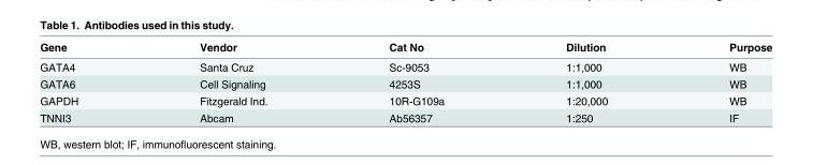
<table><thead><tr><td>Gene</td><td>Vendor</td><td>Cat No</td><td>Dilution</td><td>Purpose</td></tr></thead><tbody><tr><td>GATA4</td><td>Santa Cruz</td><td>Sc-9053</td><td>1:1,000</td><td>WB</td></tr><tr><td>GATA6</td><td>Cell Signaling</td><td>4253S</td><td>1:1,000</td><td>WB</td></tr><tr><td>GAPDH</td><td>Fitzgerald Ind.</td><td>10R-G109a</td><td>1:20,000</td><td>WB</td></tr><tr><td>TNNI3</td><td>Abcam</td><td>Ab56357</td><td>1:250</td><td>IF</td></tr></tbody></table>